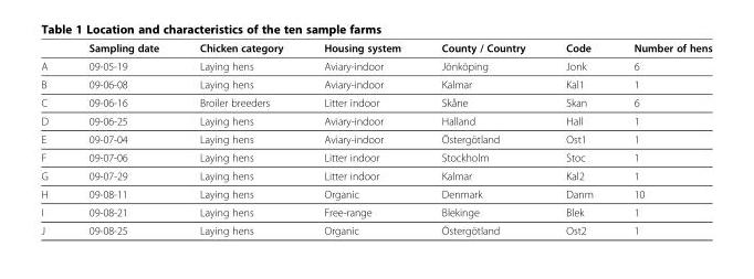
<table><thead><tr><td></td><td>Sampling date</td><td>Chicken category</td><td>Housing system</td><td>County / Country</td><td>Code</td><td>Number of hens</td></tr></thead><tbody><tr><td>A</td><td>09-05-19</td><td>Laying hens</td><td>Aviary-indoor</td><td>Jönköping</td><td>Jonk</td><td>6</td></tr><tr><td>B</td><td>09-06-08</td><td>Laying hens</td><td>Aviary-indoor</td><td>Kalmar</td><td>Kal1</td><td>1</td></tr><tr><td>C</td><td>09-06-16</td><td>Broiler breeders</td><td>Litter indoor</td><td>Skåne</td><td>Skan</td><td>6</td></tr><tr><td>D</td><td>09-06-25</td><td>Laying hens</td><td>Aviary-indoor</td><td>Halland</td><td>Hall</td><td>1</td></tr><tr><td>E</td><td>09-07-04</td><td>Laying hens</td><td>Aviary-indoor</td><td>Östergötland</td><td>Ost1</td><td>1</td></tr><tr><td>F</td><td>09-07-06</td><td>Laying hens</td><td>Litter indoor</td><td>Stockholm</td><td>Stoc</td><td>1</td></tr><tr><td>G</td><td>09-07-29</td><td>Laying hens</td><td>Litter indoor</td><td>Kalmar</td><td>Kal2</td><td>1</td></tr><tr><td>H</td><td>09-08-11</td><td>Laying hens</td><td>Organic</td><td>Denmark</td><td>Danm</td><td>10</td></tr><tr><td>I</td><td>09-08-21</td><td>Laying hens</td><td>Free-range</td><td>Blekinge</td><td>Blek</td><td>1</td></tr><tr><td>J</td><td>09-08-25</td><td>Laying hens</td><td>Organic</td><td>Östergötland</td><td>Ost2</td><td>1</td></tr></tbody></table>